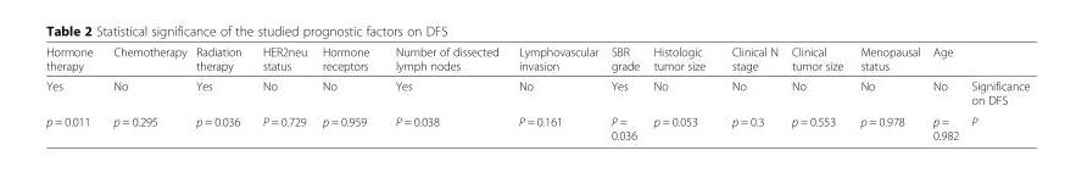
<table><thead><tr><td>Hormone therapy</td><td>Chemotherapy</td><td>Radiation therapy</td><td>HER2neu status</td><td>Hormone receptors</td><td>Number of dissected lymph nodes</td><td>Lymphovascular invasion</td><td>SBR grade</td><td>Histologic tumor size</td><td>Clinical N stage</td><td>Clinical tumor size</td><td>Menopausal status</td><td>Age</td><td></td></tr></thead><tbody><tr><td>Yes</td><td>No</td><td>Yes</td><td>No</td><td>No</td><td>Yes</td><td>No</td><td>Yes</td><td>No</td><td>No</td><td>No</td><td>No</td><td>No</td><td>Significance on DFS</td></tr><tr><td>p = 0.011</td><td>p = 0.295</td><td>p = 0.036</td><td>P = 0.729</td><td>p = 0.959</td><td>P = 0.038</td><td>P = 0.161</td><td>P = 0.036</td><td>p = 0.053</td><td>p = 0.3</td><td>p = 0.553</td><td>p = 0.978</td><td>p = 0.982</td><td>P</td></tr></tbody></table>